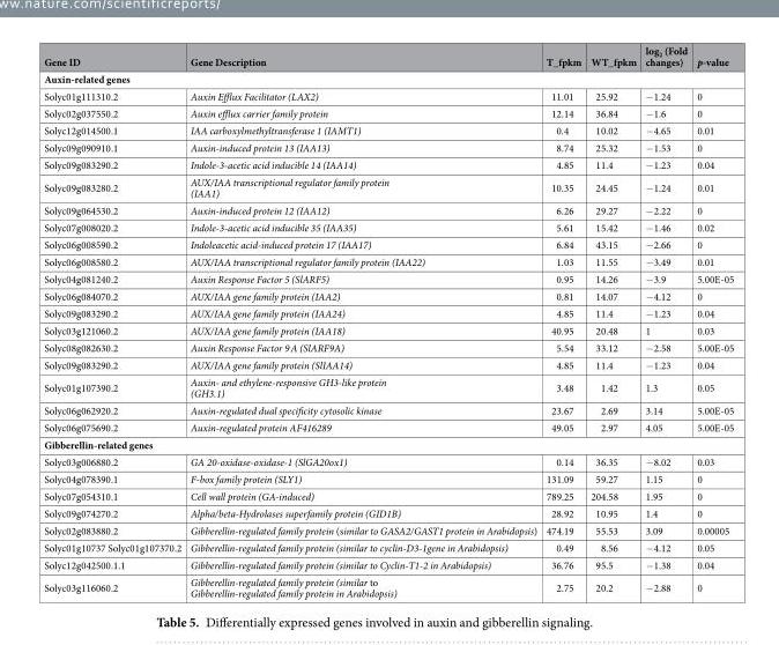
<table><thead><tr><td>Gene ID</td><td>Gene Description</td><td>T_fpkm</td><td>WT_fpkm</td><td>log<sub>2</sub> (Fold changes)</td><td>p-value</td></tr></thead><tbody><tr><td colspan="6">Auxin-related genes</td></tr><tr><td>Solyc01g111310.2</td><td>Auxin Efflux Facilitator (LAX2)</td><td>11.01</td><td>25.92</td><td>−1.24</td><td>0</td></tr><tr><td>Solyc02g037550.2</td><td>Auxin efflux carrier family protein</td><td>12.14</td><td>36.84</td><td>−1.6</td><td>0</td></tr><tr><td>Solyc12g014500.1</td><td>IAA carboxylmethyltransferase 1 (IAMT1)</td><td>0.4</td><td>10.02</td><td>−4.65</td><td>0.01</td></tr><tr><td>Solyc09g090910.1</td><td>Auxin-induced protein 13 (IAA13)</td><td>8.74</td><td>25.32</td><td>−1.53</td><td>0</td></tr><tr><td>Solyc09g083290.2</td><td>Indole-3-acetic acid inducible 14 (IAA14)</td><td>4.85</td><td>11.4</td><td>−1.23</td><td>0.04</td></tr><tr><td>Solyc09g083280.2</td><td>AUX/IAA transcriptional regulator family protein (IAA1)</td><td>10.35</td><td>24.45</td><td>−1.24</td><td>0.01</td></tr><tr><td>Solyc09g064530.2</td><td>Auxin-induced protein 12 (IAA12)</td><td>6.26</td><td>29.27</td><td>−2.22</td><td>0</td></tr><tr><td>Solyc07g008020.2</td><td>Indole-3-acetic acid inducible 35 (IAA35)</td><td>5.61</td><td>15.42</td><td>−1.46</td><td>0.02</td></tr><tr><td>Solyc06g008590.2</td><td>Indoleacetic acid-induced protein 17 (IAA17)</td><td>6.84</td><td>43.15</td><td>−2.66</td><td>0</td></tr><tr><td>Solyc06g008580.2</td><td>AUX/IAA transcriptional regulator family protein (IAA22)</td><td>1.03</td><td>11.55</td><td>−3.49</td><td>0.01</td></tr><tr><td>Solyc04g081240.2</td><td>Auxin Response Factor 5 (SlARF5)</td><td>0.95</td><td>14.26</td><td>−3.9</td><td>5.00E-05</td></tr><tr><td>Solyc06g084070.2</td><td>AUX/IAA gene family protein (IAA2)</td><td>0.81</td><td>14.07</td><td>−4.12</td><td>0</td></tr><tr><td>Solyc09g083290.2</td><td>AUX/IAA gene family protein (IAA24)</td><td>4.85</td><td>11.4</td><td>−1.23</td><td>0.04</td></tr><tr><td>Solyc03g121060.2</td><td>AUX/IAA gene family protein (IAA18)</td><td>40.95</td><td>20.48</td><td>1</td><td>0.03</td></tr><tr><td>Solyc08g082630.2</td><td>Auxin Response Factor 9 A (SlARF9A)</td><td>5.54</td><td>33.12</td><td>−2.58</td><td>5.00E-05</td></tr><tr><td>Solyc09g083290.2</td><td>AUX/IAA gene family protein (SlIAA14)</td><td>4.85</td><td>11.4</td><td>−1.23</td><td>0.04</td></tr><tr><td>Solyc01g107390.2</td><td>Auxin- and ethylene-responsive GH3-like protein (GH3.1)</td><td>3.48</td><td>1.42</td><td>1.3</td><td>0.05</td></tr><tr><td>Solyc06g062920.2</td><td>Auxin-regulated dual specificity cytosolic kinase</td><td>23.67</td><td>2.69</td><td>3.14</td><td>5.00E-05</td></tr><tr><td>Solyc06g075690.2</td><td>Auxin-regulated protein AF416289</td><td>49.05</td><td>2.97</td><td>4.05</td><td>5.00E-05</td></tr><tr><td colspan="6">Gibberellin-related genes</td></tr><tr><td>Solyc03g006880.2</td><td>GA 20-oxidase-oxidase-1 (SlGA20ox1)</td><td>0.14</td><td>36.35</td><td>−8.02</td><td>0.03</td></tr><tr><td>Solyc04g078390.1</td><td>F-box family protein (SLY1)</td><td>131.09</td><td>59.27</td><td>1.15</td><td>0</td></tr><tr><td>Solyc07g054310.1</td><td>Cell wall protein (GA-induced)</td><td>789.25</td><td>204.58</td><td>1.95</td><td>0</td></tr><tr><td>Solyc09g074270.2</td><td>Alpha/beta-Hydrolases superfamily protein (GID1B)</td><td>28.92</td><td>10.95</td><td>1.4</td><td>0</td></tr><tr><td>Solyc02g083880.2</td><td>Gibberellin-regulated family protein (similar to GASA2/GAST1 protein in Arabidopsis)</td><td>474.19</td><td>55.53</td><td>3.09</td><td>0.00005</td></tr><tr><td>Solyc01g10737 Solyc01g107370.2</td><td>Gibberellin-regulated family protein (similar to cyclin-D3-1gene in Arabidopsis)</td><td>0.49</td><td>8.56</td><td>−4.12</td><td>0.05</td></tr><tr><td>Solyc12g042500.1.1</td><td>Gibberellin-regulated family protein (similar to Cyclin-T1-2 in Arabidopsis)</td><td>36.76</td><td>95.5</td><td>−1.38</td><td>0.04</td></tr><tr><td>Solyc03g116060.2</td><td>Gibberellin-regulated family protein (similar to Gibberellin-regulated family protein in Arabidopsis)</td><td>2.75</td><td>20.2</td><td>−2.88</td><td>0</td></tr></tbody></table>